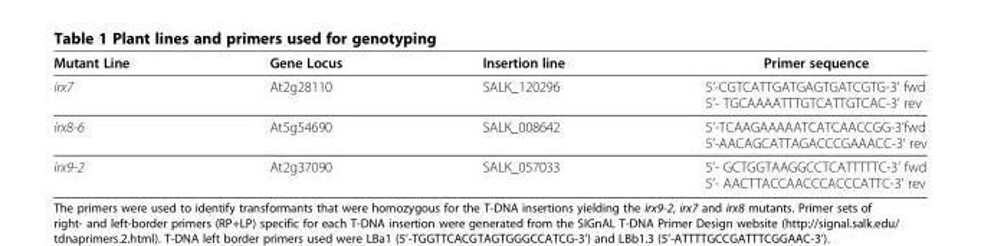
<table><thead><tr><td>Mutant Line</td><td>Gene Locus</td><td>Insertion line</td><td>Primer sequence</td></tr></thead><tbody><tr><td rowspan="2">irx7</td><td rowspan="2">At2g28110</td><td rowspan="2">SALK_120296</td><td>5’-CGTCATTGATGAGTGATCGTG-3’ fwd</td></tr><tr><td>5’- TGCAAAATTTGTCATTGTCAC-3’ rev</td></tr><tr><td rowspan="2">irx8-6</td><td rowspan="2">At5g54690</td><td rowspan="2">SALK_008642</td><td>5’-TCAAGAAAAATCATCAACCGG-3’fwd</td></tr><tr><td>5’-AACAGCATTAGACCCGAAACC-3’ rev</td></tr><tr><td rowspan="2">irx9-2</td><td rowspan="2">At2g37090</td><td rowspan="2">SALK_057033</td><td>5’- GCTGGTAAGGCCTCATTTTTC-3’ fwd</td></tr><tr><td>5’- AACTTACCAACCCACCCATTC-3’ rev</td></tr></tbody></table>